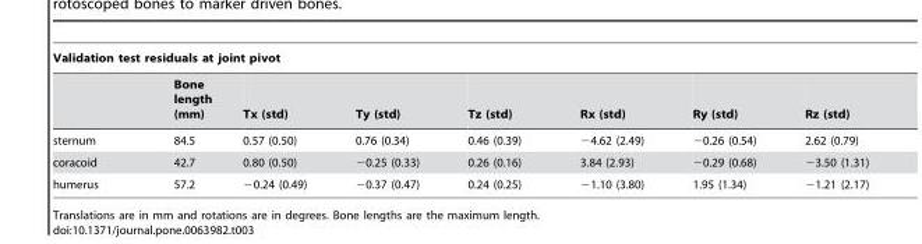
<table><thead><tr><td colspan="8">Validation test residuals at joint pivot</td></tr><tr><td></td><td>Bone length (mm)</td><td>Tx (std)</td><td>Ty (std)</td><td>Tz (std)</td><td>Rx (std)</td><td>Ry (std)</td><td>Rz (std)</td></tr></thead><tbody><tr><td>sternum</td><td>84.5</td><td>0.57 (0.50)</td><td>0.76 (0.34)</td><td>0.46 (0.39)</td><td>−4.62 (2.49)</td><td>−0.26 (0.54)</td><td>2.62 (0.79)</td></tr><tr><td>coracoid</td><td>42.7</td><td>0.80 (0.50)</td><td>−0.25 (0.33)</td><td>0.26 (0.16)</td><td>3.84 (2.93)</td><td>−0.29 (0.68)</td><td>−3.50 (1.31)</td></tr><tr><td>humerus</td><td>57.2</td><td>−0.24 (0.49)</td><td>−0.37 (0.47)</td><td>0.24 (0.25)</td><td>−1.10 (3.80)</td><td>1.95 (1.34)</td><td>−1.21 (2.17)</td></tr></tbody></table>